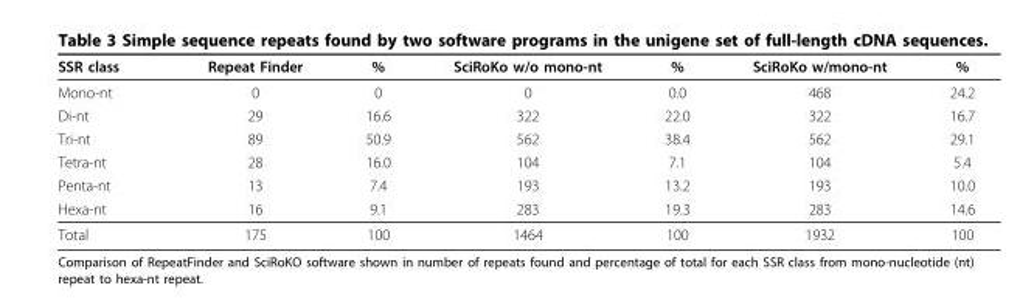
<table><thead><tr><td>SSR class</td><td>Repeat Finder</td><td>%</td><td>SciRoKo w/o mono-nt</td><td>%</td><td>SciRoKo w/mono-nt</td><td>%</td></tr></thead><tbody><tr><td>Mono-nt</td><td>0</td><td>0</td><td>0</td><td>0.0</td><td>468</td><td>24.2</td></tr><tr><td>Di-nt</td><td>29</td><td>16.6</td><td>322</td><td>22.0</td><td>322</td><td>16.7</td></tr><tr><td>Tri-nt</td><td>89</td><td>50.9</td><td>562</td><td>38.4</td><td>562</td><td>29.1</td></tr><tr><td>Tetra-nt</td><td>28</td><td>16.0</td><td>104</td><td>7.1</td><td>104</td><td>5.4</td></tr><tr><td>Penta-nt</td><td>13</td><td>7.4</td><td>193</td><td>13.2</td><td>193</td><td>10.0</td></tr><tr><td>Hexa-nt</td><td>16</td><td>9.1</td><td>283</td><td>19.3</td><td>283</td><td>14.6</td></tr><tr><td>Total</td><td>175</td><td>100</td><td>1464</td><td>100</td><td>1932</td><td>100</td></tr></tbody></table>